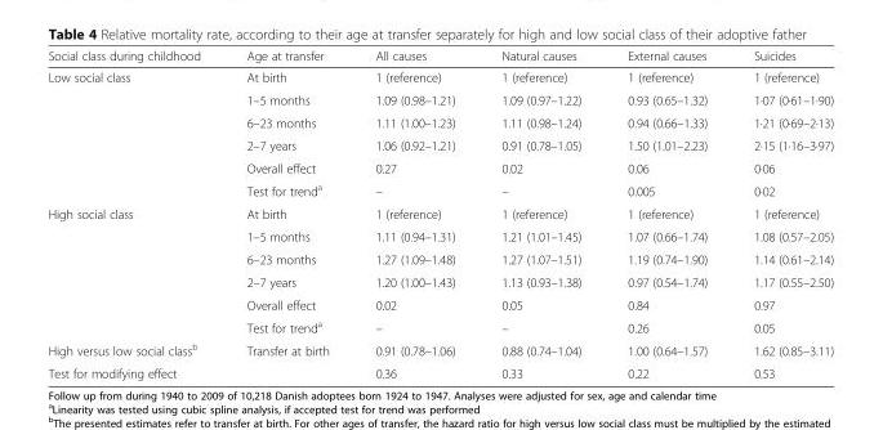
<table><thead><tr><td>Social class during childhood</td><td>Age at transfer</td><td>All causes</td><td>Natural causes</td><td>External causes</td><td>Suicides</td></tr></thead><tbody><tr><td rowspan="6">Low social class</td><td>At birth</td><td>1 (reference)</td><td>1 (reference)</td><td>1 (reference)</td><td>1 (reference)</td></tr><tr><td>1–5 months</td><td>1.09 (0.98–1.21)</td><td>1.09 (0.97–1.22)</td><td>0.93 (0.65–1.32)</td><td>1·07 (0·61–1·90)</td></tr><tr><td>6–23 months</td><td>1.11 (1.00–1.23)</td><td>1.11 (0.98–1.24)</td><td>0.94 (0.66–1.33)</td><td>1·21 (0·69–2·13)</td></tr><tr><td>2–7 years</td><td>1.06 (0.92–1.21)</td><td>0.91 (0.78–1.05)</td><td>1.50 (1.01–2.23)</td><td>2·15 (1·16–3·97)</td></tr><tr><td>Overall effect</td><td>0.27</td><td>0.02</td><td>0.06</td><td>0·06</td></tr><tr><td>Test for trend<sup>a</sup></td><td>–</td><td>–</td><td>0.005</td><td>0·02</td></tr><tr><td rowspan="6">High social class</td><td>At birth</td><td>1 (reference)</td><td>1 (reference)</td><td>1 (reference)</td><td>1 (reference)</td></tr><tr><td>1–5 months</td><td>1.11 (0.94–1.31)</td><td>1.21 (1.01–1.45)</td><td>1.07 (0.66–1.74)</td><td>1.08 (0.57–2.05)</td></tr><tr><td>6–23 months</td><td>1.27 (1.09–1.48)</td><td>1.27 (1.07–1.51)</td><td>1.19 (0.74–1.90)</td><td>1.14 (0.61–2.14)</td></tr><tr><td>2–7 years</td><td>1.20 (1.00–1.43)</td><td>1.13 (0.93–1.38)</td><td>0.97 (0.54–1.74)</td><td>1.17 (0.55–2.50)</td></tr><tr><td>Overall effect</td><td>0.02</td><td>0.05</td><td>0.84</td><td>0.97</td></tr><tr><td>Test for trend<sup>a</sup></td><td>–</td><td>–</td><td>0.26</td><td>0.05</td></tr><tr><td>High versus low social class<sup>b</sup></td><td>Transfer at birth</td><td>0.91 (0.78–1.06)</td><td>0.88 (0.74–1.04)</td><td>1.00 (0.64–1.57)</td><td>1.62 (0.85–3.11)</td></tr><tr><td>Test for modifying effect</td><td></td><td>0.36</td><td>0.33</td><td>0.22</td><td>0.53</td></tr></tbody></table>